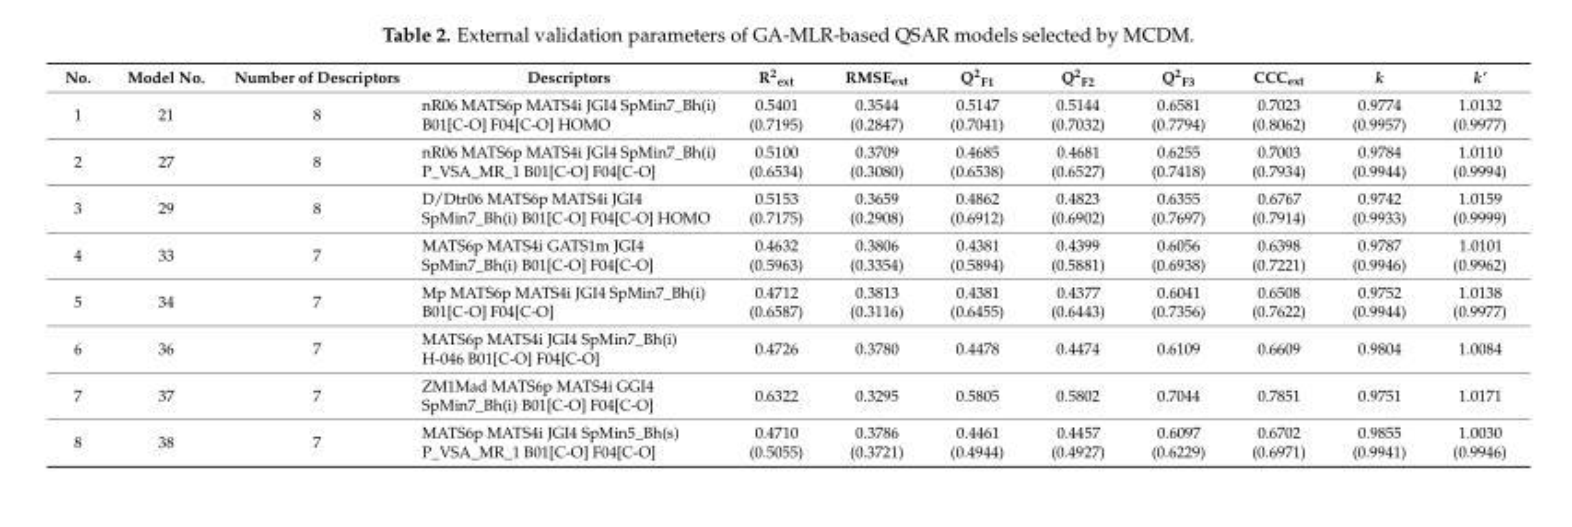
<table><thead><tr><td>No.</td><td>Model No.</td><td>Number of Descriptors</td><td>Descriptors</td><td>R<sup>2</sup><sub>ext</sub></td><td>RMSE<sub>ext</sub></td><td>Q<sup>2</sup><sub>F1</sub></td><td>Q<sup>2</sup><sub>F2</sub></td><td>Q<sup>2</sup><sub>F3</sub></td><td>CCC<sub>ext</sub></td><td>k</td><td>k’</td></tr></thead><tbody><tr><td>1</td><td>21</td><td>8</td><td>nR06 MATS6p MATS4i JGI4 SpMin7_Bh(i) B01[C-O] F04[C-O] HOMO</td><td>0.5401 (0.7195)</td><td>0.3544 (0.2847)</td><td>0.5147 (0.7041)</td><td>0.5144 (0.7032)</td><td>0.6581 (0.7794)</td><td>0.7023 (0.8062)</td><td>0.9774 (0.9957)</td><td>1.0132 (0.9977)</td></tr><tr><td>2</td><td>27</td><td>8</td><td>nR06 MATS6p MATS4i JGI4 SpMin7_Bh(i) P_VSA_MR_1 B01[C-O] F04[C-O]</td><td>0.5100 (0.6534)</td><td>0.3709 (0.3080)</td><td>0.4685 (0.6538)</td><td>0.4681 (0.6527)</td><td>0.6255 (0.7418)</td><td>0.7003 (0.7934)</td><td>0.9784 (0.9944)</td><td>1.0110 (0.9994)</td></tr><tr><td>3</td><td>29</td><td>8</td><td>D/Dtr06 MATS6p MATS4i JGI4 SpMin7_Bh(i) B01[C-O] F04[C-O] HOMO</td><td>0.5153 (0.7175)</td><td>0.3659 (0.2908)</td><td>0.4862 (0.6912)</td><td>0.4823 (0.6902)</td><td>0.6355 (0.7697)</td><td>0.6767 (0.7914)</td><td>0.9742 (0.9933)</td><td>1.0159 (0.9999)</td></tr><tr><td>4</td><td>33</td><td>7</td><td>MATS6p MATS4i GATS1m JGI4 SpMin7_Bh(i) B01[C-O] F04[C-O]</td><td>0.4632 (0.5963)</td><td>0.3806 (0.3354)</td><td>0.4381 (0.5894)</td><td>0.4399 (0.5881)</td><td>0.6056 (0.6938)</td><td>0.6398 (0.7221)</td><td>0.9787 (0.9946)</td><td>1.0101 (0.9962)</td></tr><tr><td>5</td><td>34</td><td>7</td><td>Mp MATS6p MATS4i JGI4 SpMin7_Bh(i) B01[C-O] F04[C-O]</td><td>0.4712 (0.6587)</td><td>0.3813 (0.3116)</td><td>0.4381 (0.6455)</td><td>0.4377 (0.6443)</td><td>0.6041 (0.7356)</td><td>0.6508 (0.7622)</td><td>0.9752 (0.9944)</td><td>1.0138 (0.9977)</td></tr><tr><td>6</td><td>36</td><td>7</td><td>MATS6p MATS4i JGI4 SpMin7_Bh(i) H-046 B01[C-O] F04[C-O]</td><td>0.4726</td><td>0.3780</td><td>0.4478</td><td>0.4474</td><td>0.6109</td><td>0.6609</td><td>0.9804</td><td>1.0084</td></tr><tr><td>7</td><td>37</td><td>7</td><td>ZM1Mad MATS6p MATS4i GGI4 SpMin7_Bh(i) B01[C-O] F04[C-O]</td><td>0.6322</td><td>0.3295</td><td>0.5805</td><td>0.5802</td><td>0.7044</td><td>0.7851</td><td>0.9751</td><td>1.0171</td></tr><tr><td>8</td><td>38</td><td>7</td><td>MATS6p MATS4i JGI4 SpMin5_Bh(s) P_VSA_MR_1 B01[C-O] F04[C-O]</td><td>0.4710 (0.5055)</td><td>0.3786 (0.3721)</td><td>0.4461 (0.4944)</td><td>0.4457 (0.4927)</td><td>0.6097 (0.6229)</td><td>0.6702 (0.6971)</td><td>0.9855 (0.9941)</td><td>1.0030 (0.9946)</td></tr></tbody></table>